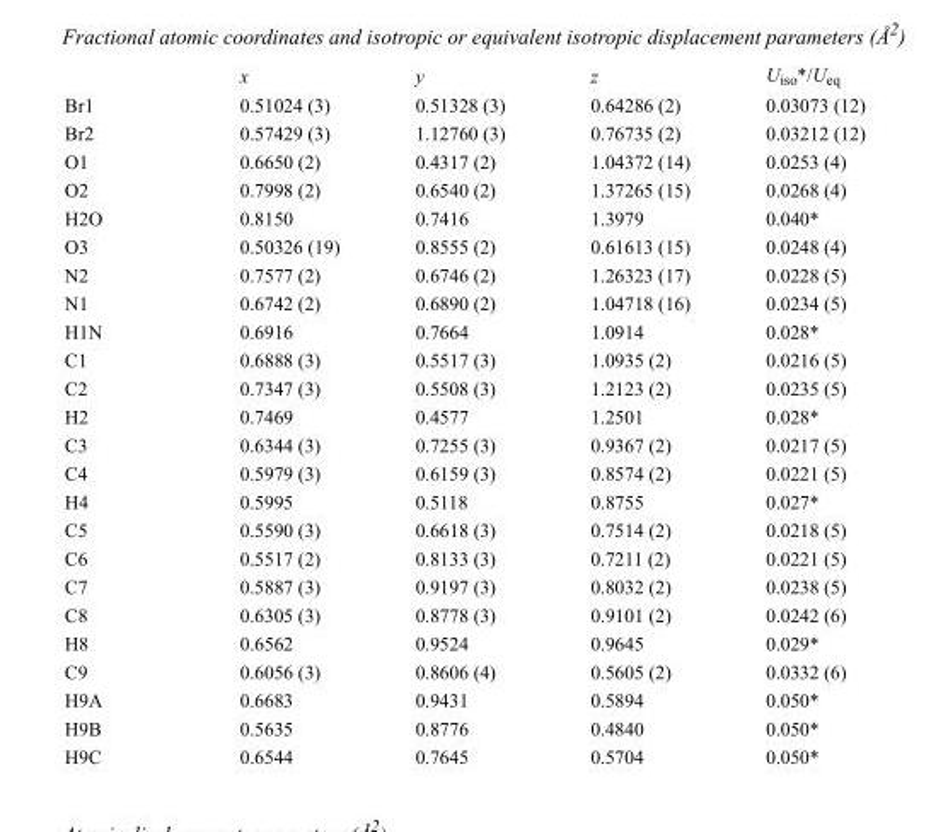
<table><thead><tr><td></td><td>x</td><td>y</td><td>z</td><td>U<sub>iso</sub>*/U<sub>eq</sub></td></tr></thead><tbody><tr><td>Br1</td><td>0.51024 (3)</td><td>0.51328 (3)</td><td>0.64286 (2)</td><td>0.03073 (12)</td></tr><tr><td>Br2</td><td>0.57429 (3)</td><td>1.12760 (3)</td><td>0.76735 (2)</td><td>0.03212 (12)</td></tr><tr><td>O1</td><td>0.6650 (2)</td><td>0.4317 (2)</td><td>1.04372 (14)</td><td>0.0253 (4)</td></tr><tr><td>O2</td><td>0.7998 (2)</td><td>0.6540 (2)</td><td>1.37265 (15)</td><td>0.0268 (4)</td></tr><tr><td>H2O</td><td>0.8150</td><td>0.7416</td><td>1.3979</td><td>0.040*</td></tr><tr><td>O3</td><td>0.50326 (19)</td><td>0.8555 (2)</td><td>0.61613 (15)</td><td>0.0248 (4)</td></tr><tr><td>N2</td><td>0.7577 (2)</td><td>0.6746 (2)</td><td>1.26323 (17)</td><td>0.0228 (5)</td></tr><tr><td>N1</td><td>0.6742 (2)</td><td>0.6890 (2)</td><td>1.04718 (16)</td><td>0.0234 (5)</td></tr><tr><td>H1N</td><td>0.6916</td><td>0.7664</td><td>1.0914</td><td>0.028*</td></tr><tr><td>C1</td><td>0.6888 (3)</td><td>0.5517 (3)</td><td>1.0935 (2)</td><td>0.0216 (5)</td></tr><tr><td>C2</td><td>0.7347 (3)</td><td>0.5508 (3)</td><td>1.2123 (2)</td><td>0.0235 (5)</td></tr><tr><td>H2</td><td>0.7469</td><td>0.4577</td><td>1.2501</td><td>0.028*</td></tr><tr><td>C3</td><td>0.6344 (3)</td><td>0.7255 (3)</td><td>0.9367 (2)</td><td>0.0217 (5)</td></tr><tr><td>C4</td><td>0.5979 (3)</td><td>0.6159 (3)</td><td>0.8574 (2)</td><td>0.0221 (5)</td></tr><tr><td>H4</td><td>0.5995</td><td>0.5118</td><td>0.8755</td><td>0.027*</td></tr><tr><td>C5</td><td>0.5590 (3)</td><td>0.6618 (3)</td><td>0.7514 (2)</td><td>0.0218 (5)</td></tr><tr><td>C6</td><td>0.5517 (2)</td><td>0.8133 (3)</td><td>0.7211 (2)</td><td>0.0221 (5)</td></tr><tr><td>C7</td><td>0.5887 (3)</td><td>0.9197 (3)</td><td>0.8032 (2)</td><td>0.0238 (5)</td></tr><tr><td>C8</td><td>0.6305 (3)</td><td>0.8778 (3)</td><td>0.9101 (2)</td><td>0.0242 (6)</td></tr><tr><td>H8</td><td>0.6562</td><td>0.9524</td><td>0.9645</td><td>0.029*</td></tr><tr><td>C9</td><td>0.6056 (3)</td><td>0.8606 (4)</td><td>0.5605 (2)</td><td>0.0332 (6)</td></tr><tr><td>H9A</td><td>0.6683</td><td>0.9431</td><td>0.5894</td><td>0.050*</td></tr><tr><td>H9B</td><td>0.5635</td><td>0.8776</td><td>0.4840</td><td>0.050*</td></tr><tr><td>H9C</td><td>0.6544</td><td>0.7645</td><td>0.5704</td><td>0.050*</td></tr></tbody></table>